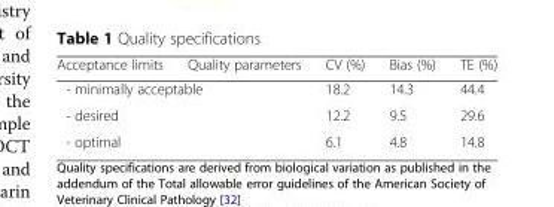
<table><thead><tr><td>Acceptance limits</td><td>Quality parameters</td><td>CV (%)</td><td>Bias (%)</td><td>TE (%)</td></tr></thead><tbody><tr><td colspan="2">- minimally acceptable</td><td>18.2</td><td>14.3</td><td>44.4</td></tr><tr><td colspan="2">- desired</td><td>12.2</td><td>9.5</td><td>29.6</td></tr><tr><td colspan="2">- optimal</td><td>6.1</td><td>4.8</td><td>14.8</td></tr></tbody></table>